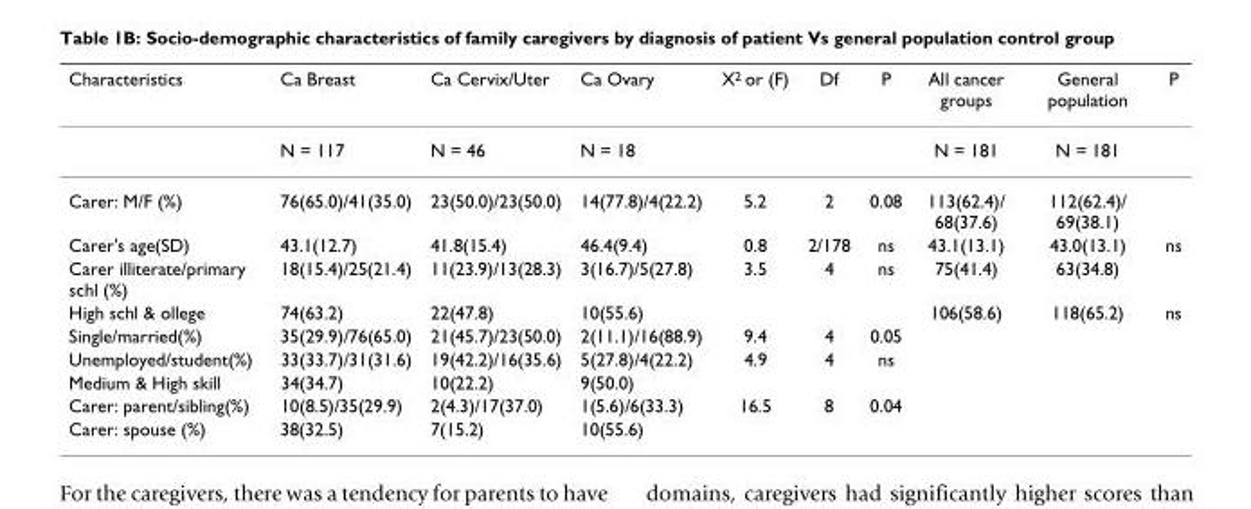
<table><thead><tr><td>Characteristics</td><td>Ca Breast</td><td>Ca Cervix/Uter</td><td>Ca Ovary</td><td>X<sup>2</sup> or (F)</td><td>Df</td><td>P</td><td>All cancer groups</td><td>General population</td><td>P</td></tr></thead><tbody><tr><td></td><td>N = 117</td><td>N = 46</td><td>N = 18</td><td></td><td></td><td></td><td>N = 181</td><td>N = 181</td><td></td></tr><tr><td>Carer: M/F (%)</td><td>76(65.0)/41(35.0)</td><td>23(50.0)/23(50.0)</td><td>14(77.8)/4(22.2)</td><td>5.2</td><td>2</td><td>0.08</td><td>113(62.4)/ 68(37.6)</td><td>112(62.4)/ 69(38.1)</td><td></td></tr><tr><td>Carer&#x27;s age(SD)</td><td>43.1(12.7)</td><td>41.8(15.4)</td><td>46.4(9.4)</td><td>0.8</td><td>2/178</td><td>ns</td><td>43.1(13.1)</td><td>43.0(13.1)</td><td>ns</td></tr><tr><td>Carer illiterate/primary schl (%)</td><td>18(15.4)/25(21.4)</td><td>11(23.9)/13(28.3)</td><td>3(16.7)/5(27.8)</td><td>3.5</td><td>4</td><td>ns</td><td>75(41.4)</td><td>63(34.8)</td><td></td></tr><tr><td>High schl &amp; ollege</td><td>74(63.2)</td><td>22(47.8)</td><td>10(55.6)</td><td></td><td></td><td></td><td>106(58.6)</td><td>118(65.2)</td><td>ns</td></tr><tr><td>Single/married(%)</td><td>35(29.9)/76(65.0)</td><td>21(45.7)/23(50.0)</td><td>2(11.1)/16(88.9)</td><td>9.4</td><td>4</td><td>0.05</td><td></td><td></td><td></td></tr><tr><td>Unemployed/student(%)</td><td>33(33.7)/31(31.6)</td><td>19(42.2)/16(35.6)</td><td>5(27.8)/4(22.2)</td><td>4.9</td><td>4</td><td>ns</td><td></td><td></td><td></td></tr><tr><td>Medium &amp; High skill</td><td>34(34.7)</td><td>10(22.2)</td><td>9(50.0)</td><td></td><td></td><td></td><td></td><td></td><td></td></tr><tr><td>Carer: parent/sibling(%)</td><td>10(8.5)/35(29.9)</td><td>2(4.3)/17(37.0)</td><td>1(5.6)/6(33.3)</td><td>16.5</td><td>8</td><td>0.04</td><td></td><td></td><td></td></tr><tr><td>Carer: spouse (%)</td><td>38(32.5)</td><td>7(15.2)</td><td>10(55.6)</td><td></td><td></td><td></td><td></td><td></td><td></td></tr></tbody></table>